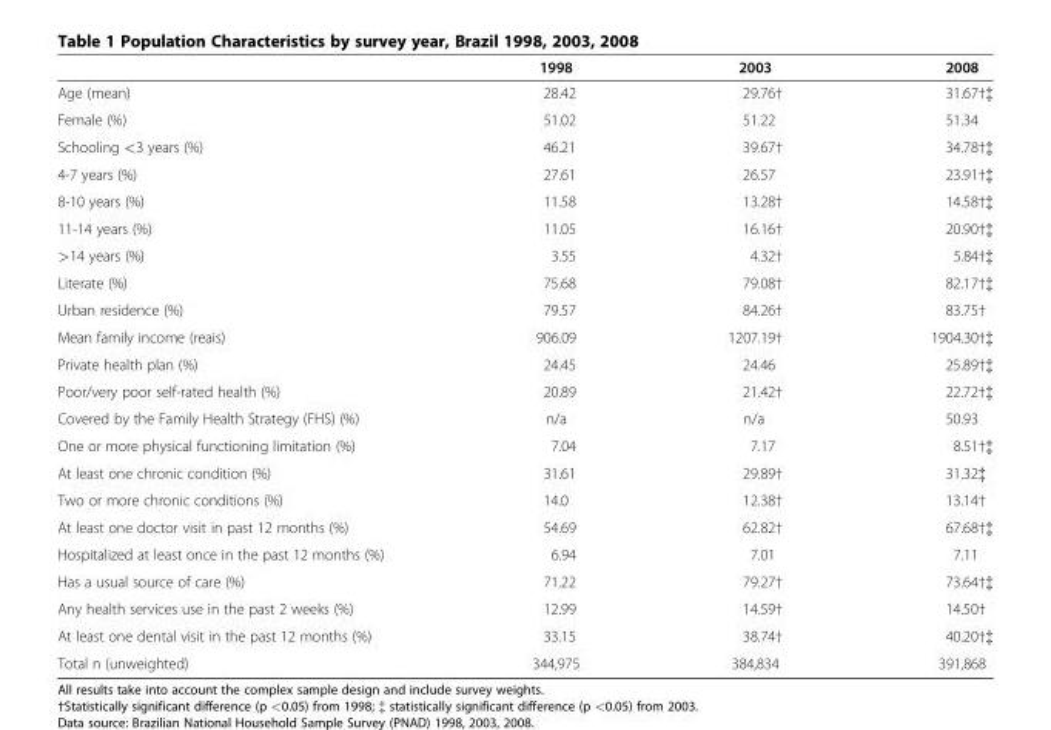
<table><thead><tr><td></td><td>1998</td><td>2003</td><td>2008</td></tr></thead><tbody><tr><td>Age (mean)</td><td>28.42</td><td>29.76†</td><td>31.67†‡</td></tr><tr><td>Female (%)</td><td>51.02</td><td>51.22</td><td>51.34</td></tr><tr><td>Schooling &lt;3 years (%)</td><td>46.21</td><td>39.67†</td><td>34.78†‡</td></tr><tr><td>4-7 years (%)</td><td>27.61</td><td>26.57</td><td>23.91†‡</td></tr><tr><td>8-10 years (%)</td><td>11.58</td><td>13.28†</td><td>14.58†‡</td></tr><tr><td>11-14 years (%)</td><td>11.05</td><td>16.16†</td><td>20.90†‡</td></tr><tr><td>&gt;14 years (%)</td><td>3.55</td><td>4.32†</td><td>5.84†‡</td></tr><tr><td>Literate (%)</td><td>75.68</td><td>79.08†</td><td>82.17†‡</td></tr><tr><td>Urban residence (%)</td><td>79.57</td><td>84.26†</td><td>83.75†</td></tr><tr><td>Mean family income (reais)</td><td>906.09</td><td>1207.19†</td><td>1904.30†‡</td></tr><tr><td>Private health plan (%)</td><td>24.45</td><td>24.46</td><td>25.89†‡</td></tr><tr><td>Poor/very poor self-rated health (%)</td><td>20.89</td><td>21.42†</td><td>22.72†‡</td></tr><tr><td>Covered by the Family Health Strategy (FHS) (%)</td><td>n/a</td><td>n/a</td><td>50.93</td></tr><tr><td>One or more physical functioning limitation (%)</td><td>7.04</td><td>7.17</td><td>8.51†‡</td></tr><tr><td>At least one chronic condition (%)</td><td>31.61</td><td>29.89†</td><td>31.32‡</td></tr><tr><td>Two or more chronic conditions (%)</td><td>14.0</td><td>12.38†</td><td>13.14†</td></tr><tr><td>At least one doctor visit in past 12 months (%)</td><td>54.69</td><td>62.82†</td><td>67.68†‡</td></tr><tr><td>Hospitalized at least once in the past 12 months (%)</td><td>6.94</td><td>7.01</td><td>7.11</td></tr><tr><td>Has a usual source of care (%)</td><td>71.22</td><td>79.27†</td><td>73.64†‡</td></tr><tr><td>Any health services use in the past 2 weeks (%)</td><td>12.99</td><td>14.59†</td><td>14.50†</td></tr><tr><td>At least one dental visit in the past 12 months (%)</td><td>33.15</td><td>38.74†</td><td>40.20†‡</td></tr><tr><td>Total n (unweighted)</td><td>344,975</td><td>384,834</td><td>391,868</td></tr></tbody></table>